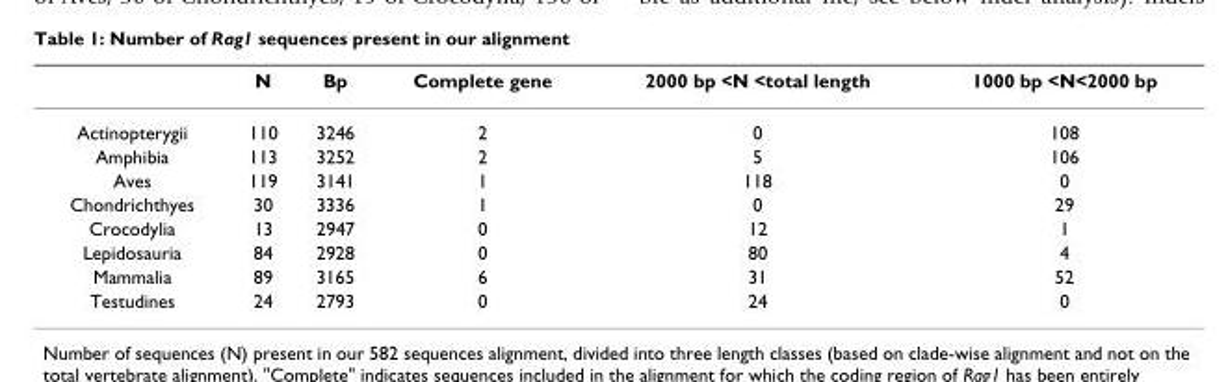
<table><thead><tr><td></td><td>N</td><td>Bp</td><td>Complete gene</td><td>2000 bp &lt;N &lt;total length</td><td>1000 bp &lt;N&lt;2000 bp</td></tr></thead><tbody><tr><td>Actinopterygii</td><td>110</td><td>3246</td><td>2</td><td>0</td><td>108</td></tr><tr><td>Amphibia</td><td>113</td><td>3252</td><td>2</td><td>5</td><td>106</td></tr><tr><td>Aves</td><td>119</td><td>3141</td><td>1</td><td>118</td><td>0</td></tr><tr><td>Chondrichthyes</td><td>30</td><td>3336</td><td>1</td><td>0</td><td>29</td></tr><tr><td>Crocodylia</td><td>13</td><td>2947</td><td>0</td><td>12</td><td>1</td></tr><tr><td>Lepidosauria</td><td>84</td><td>2928</td><td>0</td><td>80</td><td>4</td></tr><tr><td>Mammalia</td><td>89</td><td>3165</td><td>6</td><td>31</td><td>52</td></tr><tr><td>Testudines</td><td>24</td><td>2793</td><td>0</td><td>24</td><td>0</td></tr></tbody></table>